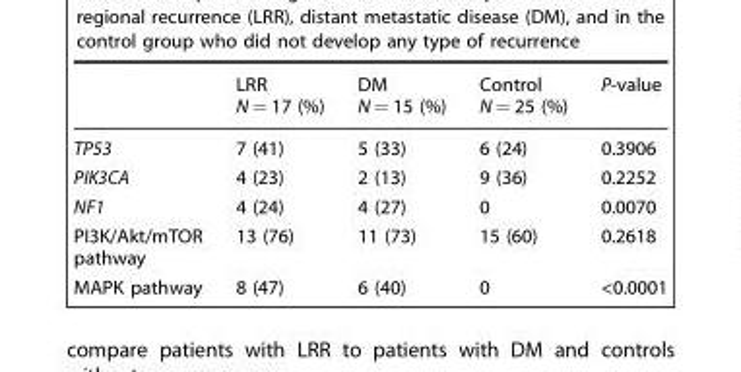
<table><thead><tr><td></td><td>LRR N = 17 (%)</td><td>DM N = 15 (%)</td><td>Control N = 25 (%)</td><td>P-value</td></tr></thead><tbody><tr><td>TP53</td><td>7 (41)</td><td>5 (33)</td><td>6 (24)</td><td>0.3906</td></tr><tr><td>PIK3CA</td><td>4 (23)</td><td>2 (13)</td><td>9 (36)</td><td>0.2252</td></tr><tr><td>NF1</td><td>4 (24)</td><td>4 (27)</td><td>0</td><td>0.0070</td></tr><tr><td>PI3K/Akt/mTOR pathway</td><td>13 (76)</td><td>11 (73)</td><td>15 (60)</td><td>0.2618</td></tr><tr><td>MAPK pathway</td><td>8 (47)</td><td>6 (40)</td><td>0</td><td>&lt;0.0001</td></tr></tbody></table>